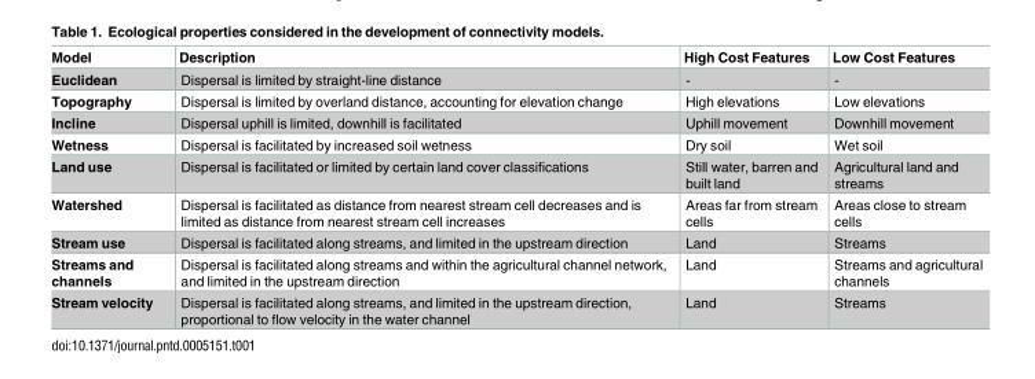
<table><thead><tr><td>Model</td><td>Description</td><td>High Cost Features</td><td>Low Cost Features</td></tr></thead><tbody><tr><td>Euclidean</td><td>Dispersal is limited by straight-line distance</td><td>-</td><td>-</td></tr><tr><td>Topography</td><td>Dispersal is limited by overland distance, accounting for elevation change</td><td>High elevations</td><td>Low elevations</td></tr><tr><td>Incline</td><td>Dispersal uphill is limited, downhill is facilitated</td><td>Uphill movement</td><td>Downhill movement</td></tr><tr><td>Wetness</td><td>Dispersal is facilitated by increased soil wetness</td><td>Dry soil</td><td>Wet soil</td></tr><tr><td>Land use</td><td>Dispersal is facilitated or limited by certain land cover classifications</td><td>Still water, barren and built land</td><td>Agricultural land and streams</td></tr><tr><td>Watershed</td><td>Dispersal is facilitated as distance from nearest stream cell decreases and is limited as distance from nearest stream cell increases</td><td>Areas far from stream cells</td><td>Areas close to stream cells</td></tr><tr><td>Stream use</td><td>Dispersal is facilitated along streams, and limited in the upstream direction</td><td>Land</td><td>Streams</td></tr><tr><td>Streams and channels</td><td>Dispersal is facilitated along streams and within the agricultural channel network, and limited in the upstream direction</td><td>Land</td><td>Streams and agricultural channels</td></tr><tr><td>Stream velocity</td><td>Dispersal is facilitated along streams, and limited in the upstream direction, proportional to flow velocity in the water channel</td><td>Land</td><td>Streams</td></tr></tbody></table>